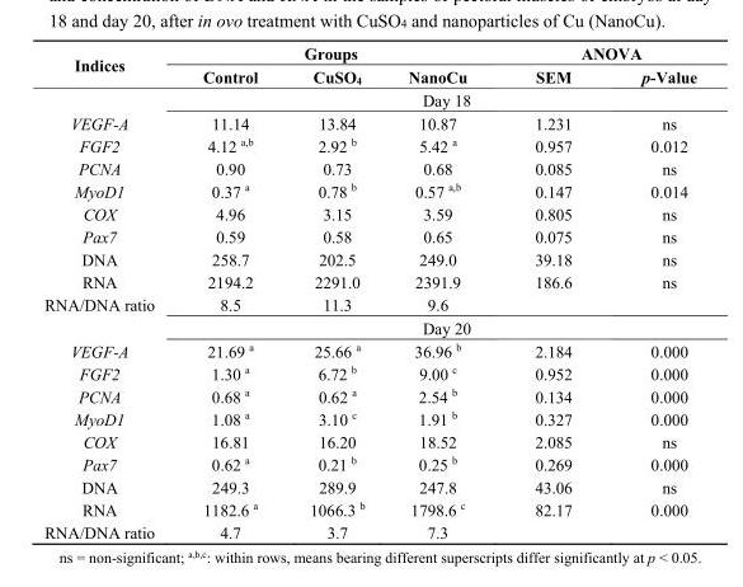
<table><thead><tr><td rowspan="2">Indices</td><td colspan="3">Groups</td><td colspan="2">ANOVA</td></tr><tr><td>Control</td><td>CuSO<sub>4</sub></td><td>NanoCu</td><td>SEM</td><td>p-Value</td></tr></thead><tbody><tr><td></td><td colspan="5">Day 18</td></tr><tr><td>VEGF-A</td><td>11.14</td><td>13.84</td><td>10.87</td><td>1.231</td><td>ns</td></tr><tr><td>FGF2</td><td>4.12 <sup>a,b</sup></td><td>2.92 <sup>b</sup></td><td>5.42 <sup>a</sup></td><td>0.957</td><td>0.012</td></tr><tr><td>PCNA</td><td>0.90</td><td>0.73</td><td>0.68</td><td>0.085</td><td>ns</td></tr><tr><td>MyoD1</td><td>0.37 <sup>a</sup></td><td>0.78 <sup>b</sup></td><td>0.57 <sup>a,b</sup></td><td>0.147</td><td>0.014</td></tr><tr><td>COX</td><td>4.96</td><td>3.15</td><td>3.59</td><td>0.805</td><td>ns</td></tr><tr><td>Pax7</td><td>0.59</td><td>0.58</td><td>0.65</td><td>0.075</td><td>ns</td></tr><tr><td>DNA</td><td>258.7</td><td>202.5</td><td>249.0</td><td>39.18</td><td>ns</td></tr><tr><td>RNA</td><td>2194.2</td><td>2291.0</td><td>2391.9</td><td>186.6</td><td>ns</td></tr><tr><td rowspan="2">RNA/DNA ratio</td><td>8.5</td><td>11.3</td><td>9.6</td><td></td><td></td></tr><tr><td colspan="5">Day 20</td></tr><tr><td>VEGF-A</td><td>21.69 <sup>a</sup></td><td>25.66 <sup>a</sup></td><td>36.96 <sup>b</sup></td><td>2.184</td><td>0.000</td></tr><tr><td>FGF2</td><td>1.30 <sup>a</sup></td><td>6.72 <sup>b</sup></td><td>9.00 <sup>c</sup></td><td>0.952</td><td>0.000</td></tr><tr><td>PCNA</td><td>0.68 <sup>a</sup></td><td>0.62 <sup>a</sup></td><td>2.54 <sup>b</sup></td><td>0.134</td><td>0.000</td></tr><tr><td>MyoD1</td><td>1.08 <sup>a</sup></td><td>3.10 <sup>c</sup></td><td>1.91 <sup>b</sup></td><td>0.327</td><td>0.000</td></tr><tr><td>COX</td><td>16.81</td><td>16.20</td><td>18.52</td><td>2.085</td><td>ns</td></tr><tr><td>Pax7</td><td>0.62 <sup>a</sup></td><td>0.21 <sup>b</sup></td><td>0.25 <sup>b</sup></td><td>0.269</td><td>0.000</td></tr><tr><td>DNA</td><td>249.3</td><td>289.9</td><td>247.8</td><td>43.06</td><td>ns</td></tr><tr><td>RNA</td><td>1182.6 <sup>a</sup></td><td>1066.3 <sup>b</sup></td><td>1798.6 <sup>c</sup></td><td>82.17</td><td>0.000</td></tr><tr><td>RNA/DNA ratio</td><td>4.7</td><td>3.7</td><td>7.3</td><td></td><td></td></tr></tbody></table>